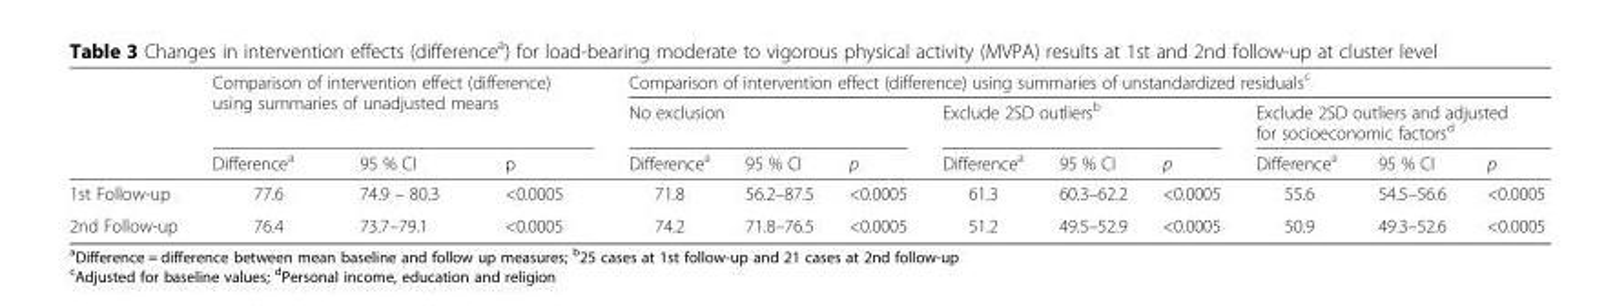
<table><thead><tr><td rowspan="3"></td><td rowspan="2" colspan="3">Comparison of intervention effect (difference) using summaries of unadjusted means</td><td colspan="9">Comparison of intervention effect (difference) using summaries of unstandardized residuals<sup>c</sup></td></tr><tr><td colspan="3">No exclusion</td><td colspan="3">Exclude 2SD outliers<sup>b</sup></td><td colspan="3">Exclude 2SD outliers and adjusted for socioeconomic factors<sup>d</sup></td></tr><tr><td>Difference<sup>a</sup></td><td>95 % CI</td><td>p</td><td>Difference<sup>a</sup></td><td>95 % CI</td><td>p</td><td>Difference<sup>a</sup></td><td>95 % CI</td><td>p</td><td>Difference<sup>a</sup></td><td>95 % CI</td><td>p</td></tr></thead><tbody><tr><td>1st Follow-up</td><td>77.6</td><td>74.9 – 80.3</td><td>&lt;0.0005</td><td>71.8</td><td>56.2–87.5</td><td>&lt;0.0005</td><td>61.3</td><td>60.3–62.2</td><td>&lt;0.0005</td><td>55.6</td><td>54.5–56.6</td><td>&lt;0.0005</td></tr><tr><td>2nd Follow-up</td><td>76.4</td><td>73.7–79.1</td><td>&lt;0.0005</td><td>74.2</td><td>71.8–76.5</td><td>&lt;0.0005</td><td>51.2</td><td>49.5–52.9</td><td>&lt;0.0005</td><td>50.9</td><td>49.3–52.6</td><td>&lt;0.0005</td></tr></tbody></table>